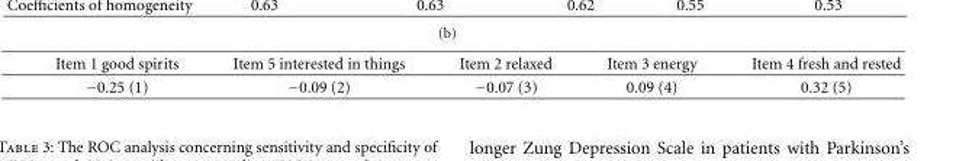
<table><thead><tr><td>Item 1 good spirits</td><td>Item 5 interested in things</td><td>Item 2 relaxed</td><td>Item 3 energy</td><td>Item 4 fresh and rested</td></tr></thead><tbody><tr><td>−0.25 (1)</td><td>−0.09 (2)</td><td>−0.07 (3)</td><td>0.09 (4)</td><td>0.32 (5)</td></tr></tbody></table>